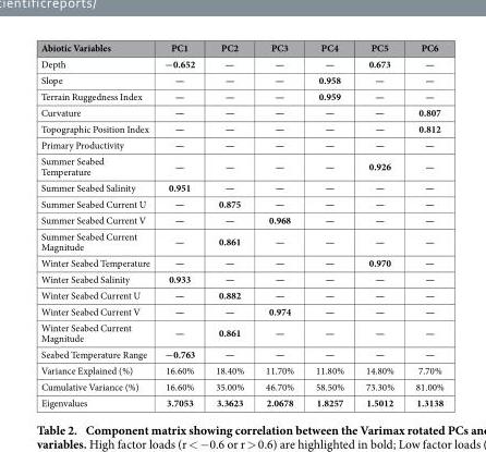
<table><thead><tr><td>Abiotic Variables</td><td>PC1</td><td>PC2</td><td>PC3</td><td>PC4</td><td>PC5</td><td>PC6</td></tr></thead><tbody><tr><td>Depth</td><td>−0.652</td><td>—</td><td>—</td><td>—</td><td>0.673</td><td>—</td></tr><tr><td>Slope</td><td>—</td><td>—</td><td>—</td><td>0.958</td><td>—</td><td>—</td></tr><tr><td>Terrain Ruggedness Index</td><td>—</td><td>—</td><td>—</td><td>0.959</td><td>—</td><td>—</td></tr><tr><td>Curvature</td><td>—</td><td>—</td><td>—</td><td>—</td><td>—</td><td>0.807</td></tr><tr><td>Topographic Position Index</td><td>—</td><td>—</td><td>—</td><td>—</td><td>—</td><td>0.812</td></tr><tr><td>Primary Productivity</td><td>—</td><td>—</td><td>—</td><td>—</td><td>—</td><td>—</td></tr><tr><td>Summer Seabed Temperature</td><td>—</td><td>—</td><td>—</td><td>—</td><td>0.926</td><td>—</td></tr><tr><td>Summer Seabed Salinity</td><td>0.951</td><td>—</td><td>—</td><td>—</td><td>—</td><td>—</td></tr><tr><td>Summer Seabed Current U</td><td>—</td><td>0.875</td><td>—</td><td>—</td><td>—</td><td>—</td></tr><tr><td>Summer Seabed Current V</td><td>—</td><td>—</td><td>0.968</td><td>—</td><td>—</td><td>—</td></tr><tr><td>Summer Seabed Current Magnitude</td><td>—</td><td>0.861</td><td>—</td><td>—</td><td>—</td><td>—</td></tr><tr><td>Winter Seabed Temperature</td><td>—</td><td>—</td><td>—</td><td>—</td><td>0.970</td><td>—</td></tr><tr><td>Winter Seabed Salinity</td><td>0.933</td><td>—</td><td>—</td><td>—</td><td>—</td><td>—</td></tr><tr><td>Winter Seabed Current U</td><td>—</td><td>0.882</td><td>—</td><td>—</td><td>—</td><td>—</td></tr><tr><td>Winter Seabed Current V</td><td>—</td><td>—</td><td>0.974</td><td>—</td><td>—</td><td>—</td></tr><tr><td>Winter Seabed Current Magnitude</td><td>—</td><td>0.861</td><td>—</td><td>—</td><td>—</td><td>—</td></tr><tr><td>Seabed Temperature Range</td><td>−0.763</td><td>—</td><td>—</td><td>—</td><td>—</td><td>—</td></tr><tr><td>Variance Explained (%)</td><td>16.60%</td><td>18.40%</td><td>11.70%</td><td>11.80%</td><td>14.80%</td><td>7.70%</td></tr><tr><td>Cumulative Variance (%)</td><td>16.60%</td><td>35.00%</td><td>46.70%</td><td>58.50%</td><td>73.30%</td><td>81.00%</td></tr><tr><td>Eigenvalues</td><td>3.7053</td><td>3.3623</td><td>2.0678</td><td>1.8257</td><td>1.5012</td><td>1.3138</td></tr></tbody></table>